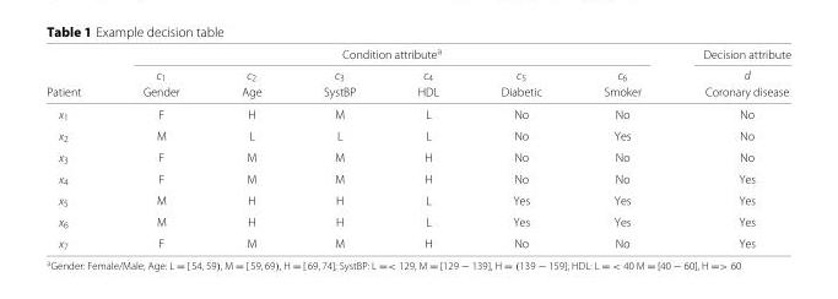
<table><thead><tr><td rowspan="3">Patient</td><td colspan="4">Condition attribute<sup>a</sup></td><td rowspan="3">c<sub>5</sub> Diabetic</td><td rowspan="3">c<sub>6</sub> Smoker</td><td rowspan="3">Decision attribute d Coronary disease</td></tr><tr><td rowspan="2">c<sub>1</sub> Gender</td><td rowspan="2">c<sub>2</sub> Age</td><td rowspan="2">c<sub>3</sub> SystBP</td><td rowspan="2">c<sub>4</sub> HDL</td></tr><tr></tr></thead><tbody><tr><td>x<sub>1</sub></td><td>F</td><td>H</td><td>M</td><td>L</td><td>No</td><td>No</td><td>No</td></tr><tr><td>x<sub>2</sub></td><td>M</td><td>L</td><td>L</td><td>L</td><td>No</td><td>Yes</td><td>No</td></tr><tr><td>x<sub>3</sub></td><td>F</td><td>M</td><td>M</td><td>H</td><td>No</td><td>No</td><td>No</td></tr><tr><td>x<sub>4</sub></td><td>F</td><td>M</td><td>M</td><td>H</td><td>No</td><td>No</td><td>Yes</td></tr><tr><td>x<sub>5</sub></td><td>M</td><td>H</td><td>H</td><td>L</td><td>Yes</td><td>Yes</td><td>Yes</td></tr><tr><td>x<sub>6</sub></td><td>M</td><td>H</td><td>H</td><td>L</td><td>Yes</td><td>Yes</td><td>Yes</td></tr><tr><td>x<sub>7</sub></td><td>F</td><td>M</td><td>M</td><td>H</td><td>No</td><td>No</td><td>Yes</td></tr></tbody></table>